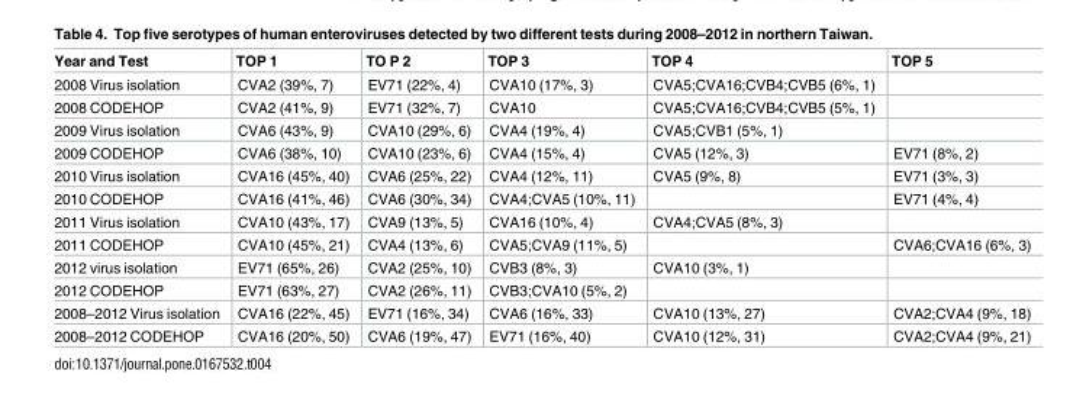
<table><thead><tr><td>Year and Test</td><td>TOP 1</td><td>TO P 2</td><td>TOP 3</td><td>TOP 4</td><td>TOP 5</td></tr></thead><tbody><tr><td>2008 Virus isolation</td><td>CVA2 (39%, 7)</td><td>EV71 (22%, 4)</td><td>CVA10 (17%, 3)</td><td>CVA5;CVA16;CVB4;CVB5 (6%, 1)</td><td></td></tr><tr><td>2008 CODEHOP</td><td>CVA2 (41%, 9)</td><td>EV71 (32%, 7)</td><td>CVA10</td><td>CVA5;CVA16;CVB4;CVB5 (5%, 1)</td><td></td></tr><tr><td>2009 Virus isolation</td><td>CVA6 (43%, 9)</td><td>CVA10 (29%, 6)</td><td>CVA4 (19%, 4)</td><td>CVA5;CVB1 (5%, 1)</td><td></td></tr><tr><td>2009 CODEHOP</td><td>CVA6 (38%, 10)</td><td>CVA10 (23%, 6)</td><td>CVA4 (15%, 4)</td><td>CVA5 (12%, 3)</td><td>EV71 (8%, 2)</td></tr><tr><td>2010 Virus isolation</td><td>CVA16 (45%, 40)</td><td>CVA6 (25%, 22)</td><td>CVA4 (12%, 11)</td><td>CVA5 (9%, 8)</td><td>EV71 (3%, 3)</td></tr><tr><td>2010 CODEHOP</td><td>CVA16 (41%, 46)</td><td>CVA6 (30%, 34)</td><td>CVA4;CVA5 (10%, 11)</td><td></td><td>EV71 (4%, 4)</td></tr><tr><td>2011 Virus isolation</td><td>CVA10 (43%, 17)</td><td>CVA9 (13%, 5)</td><td>CVA16 (10%, 4)</td><td>CVA4;CVA5 (8%, 3)</td><td></td></tr><tr><td>2011 CODEHOP</td><td>CVA10 (45%, 21)</td><td>CVA4 (13%, 6)</td><td>CVA5;CVA9 (11%, 5)</td><td></td><td>CVA6;CVA16 (6%, 3)</td></tr><tr><td>2012 virus isolation</td><td>EV71 (65%, 26)</td><td>CVA2 (25%, 10)</td><td>CVB3 (8%, 3)</td><td>CVA10 (3%, 1)</td><td></td></tr><tr><td>2012 CODEHOP</td><td>EV71 (63%, 27)</td><td>CVA2 (26%, 11)</td><td>CVB3;CVA10 (5%, 2)</td><td></td><td></td></tr><tr><td>2008–2012 Virus isolation</td><td>CVA16 (22%, 45)</td><td>EV71 (16%, 34)</td><td>CVA6 (16%, 33)</td><td>CVA10 (13%, 27)</td><td>CVA2;CVA4 (9%, 18)</td></tr><tr><td>2008–2012 CODEHOP</td><td>CVA16 (20%, 50)</td><td>CVA6 (19%, 47)</td><td>EV71 (16%, 40)</td><td>CVA10 (12%, 31)</td><td>CVA2;CVA4 (9%, 21)</td></tr></tbody></table>